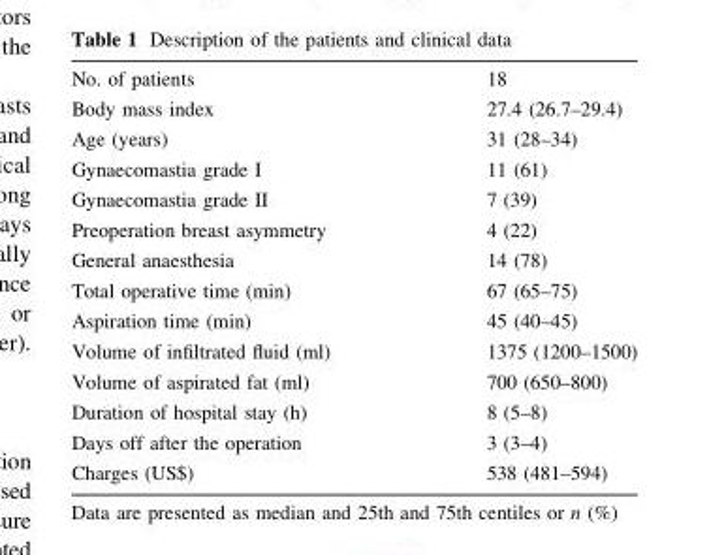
<table><tbody><tr><td>No. of patients</td><td>18</td></tr><tr><td>Body mass index</td><td>27.4 (26.7–29.4)</td></tr><tr><td>Age (years)</td><td>31 (28–34)</td></tr><tr><td>Gynaecomastia grade I</td><td>11 (61)</td></tr><tr><td>Gynaecomastia grade II</td><td>7 (39)</td></tr><tr><td>Preoperation breast asymmetry</td><td>4 (22)</td></tr><tr><td>General anaesthesia</td><td>14 (78)</td></tr><tr><td>Total operative time (min)</td><td>67 (65–75)</td></tr><tr><td>Aspiration time (min)</td><td>45 (40–45)</td></tr><tr><td>Volume of infiltrated fluid (ml)</td><td>1375 (1200–1500)</td></tr><tr><td>Volume of aspirated fat (ml)</td><td>700 (650–800)</td></tr><tr><td>Duration of hospital stay (h)</td><td>8 (5–8)</td></tr><tr><td>Days off after the operation</td><td>3 (3–4)</td></tr><tr><td>Charges (US$)</td><td>538 (481–594)</td></tr></tbody></table>